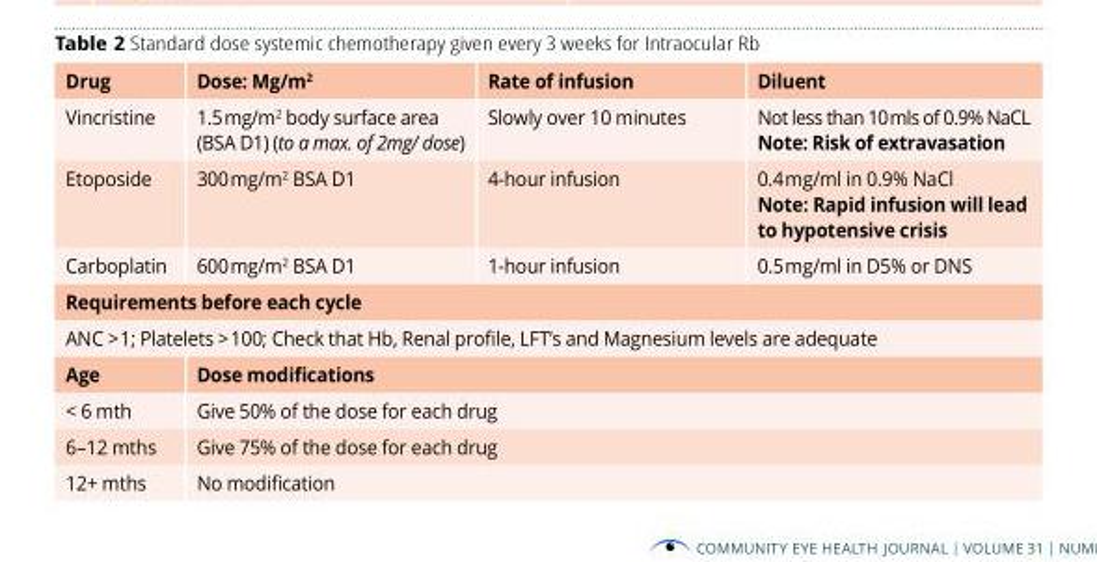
<table><thead><tr><td>Drug</td><td>Dose: Mg/m<sup>2</sup></td><td>Rate of infusion</td><td>Diluent</td></tr></thead><tbody><tr><td>Vincristine</td><td>1.5 mg/m<sup>2</sup> body surface area (BSA D1) (to a max. of 2mg/ dose)</td><td>Slowly over 10 minutes</td><td>Not less than 10 mls of 0.9% NaCL Note: Risk of extravasation</td></tr><tr><td>Etoposide</td><td>300 mg/m<sup>2</sup> BSA D1</td><td>4-hour infusion</td><td>0.4 mg/ml in 0.9% NaCl Note: Rapid infusion will lead to hypotensive crisis</td></tr><tr><td>Carboplatin</td><td>600 mg/m<sup>2</sup> BSA D1</td><td>1-hour infusion</td><td>0.5 mg/ml in D5% or DNS</td></tr><tr><td colspan="4">Requirements before each cycle</td></tr><tr><td colspan="4">ANC &gt; 1; Platelets &gt; 100; Check that Hb, Renal profile, LFT’s and Magnesium levels are adequate</td></tr><tr><td>Age</td><td colspan="3">Dose modifications</td></tr><tr><td>&lt; 6 mth</td><td colspan="3">Give 50% of the dose for each drug</td></tr><tr><td>6–12 mths</td><td colspan="3">Give 75% of the dose for each drug</td></tr><tr><td>12+ mths</td><td colspan="3">No modification</td></tr></tbody></table>